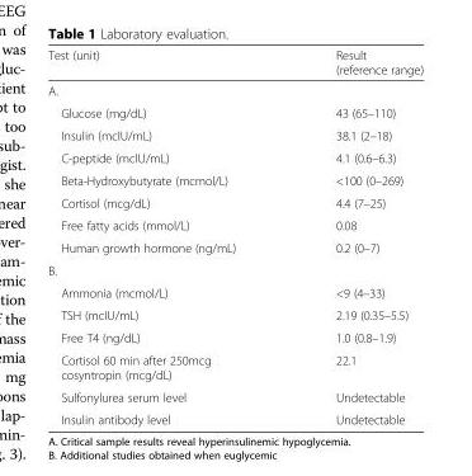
<table><thead><tr><td>Test (unit)</td><td>Result (reference range)</td></tr></thead><tbody><tr><td colspan="2">A.</td></tr><tr><td>Glucose (mg/dL)</td><td>43 (65–110)</td></tr><tr><td>Insulin (mcIU/mL)</td><td>38.1 (2–18)</td></tr><tr><td>C-peptide (mcIU/mL)</td><td>4.1 (0.6–6.3)</td></tr><tr><td>Beta-Hydroxybutyrate (mcmol/L)</td><td>&lt;100 (0–269)</td></tr><tr><td>Cortisol (mcg/dL)</td><td>4.4 (7–25)</td></tr><tr><td>Free fatty acids (mmol/L)</td><td>0.08</td></tr><tr><td>Human growth hormone (ng/mL)</td><td>0.2 (0–7)</td></tr><tr><td colspan="2">B.</td></tr><tr><td>Ammonia (mcmol/L)</td><td>&lt;9 (4–33)</td></tr><tr><td>TSH (mcIU/mL)</td><td>2.19 (0.35–5.5)</td></tr><tr><td>Free T4 (ng/dL)</td><td>1.0 (0.8–1.9)</td></tr><tr><td>Cortisol 60 min after 250mcg cosyntropin (mcg/dL)</td><td>22.1</td></tr><tr><td>Sulfonylurea serum level</td><td>Undetectable</td></tr><tr><td>Insulin antibody level</td><td>Undetectable</td></tr></tbody></table>